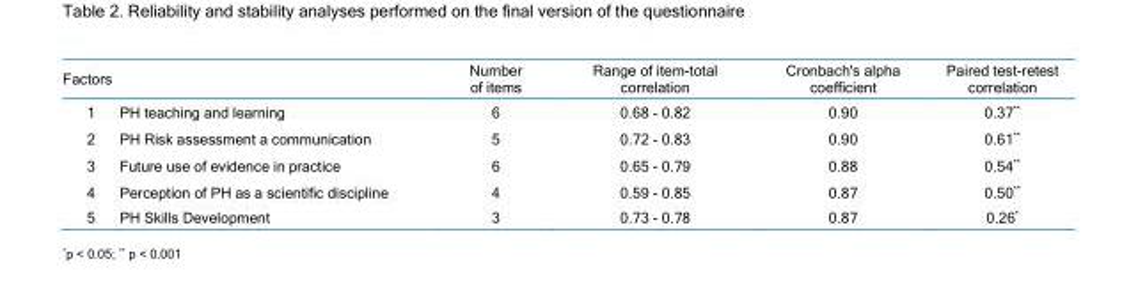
<table><thead><tr><td colspan="2">Factors</td><td rowspan="2">Number of items 6</td><td rowspan="2">Range of item-total correlation 0.68 - 0.82</td><td rowspan="2">Cronbach&#x27;s alpha coefficient 0.90</td><td rowspan="2">Paired test-retest correlation 0.37**</td></tr><tr><td>1</td><td>PH teaching and learning</td></tr></thead><tbody><tr><td>2</td><td>PH Risk assessment a communication</td><td>5</td><td>0.72 - 0.83</td><td>0.90</td><td>0.61**</td></tr><tr><td>3</td><td>Future use of evidence in practice</td><td>6</td><td>0.65 - 0.79</td><td>0.88</td><td>0.54**</td></tr><tr><td>4</td><td>Perception of PH as a scientific discipline</td><td>4</td><td>0.59 - 0.85</td><td>0.87</td><td>0.50**</td></tr><tr><td>5</td><td>PH Skills Development</td><td>3</td><td>0.73 - 0.78</td><td>0.87</td><td>0.26*</td></tr></tbody></table>